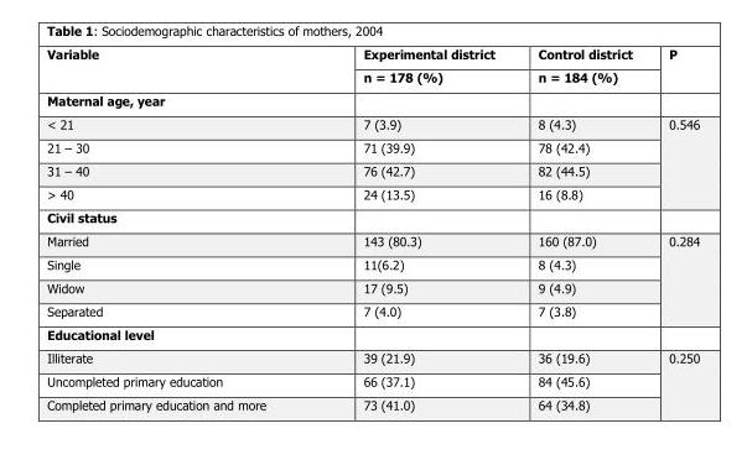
<table><thead><tr><td rowspan="2">Variable</td><td rowspan="2">Experimental district n = 178 (%)</td><td rowspan="2">Control district n = 184 (%)</td><td rowspan="2">P</td></tr><tr></tr></thead><tbody><tr><td colspan="4">Maternal age, year</td></tr><tr><td>&lt; 21</td><td>7 (3.9)</td><td>8 (4.3)</td><td rowspan="4">0.546</td></tr><tr><td>21 – 30</td><td>71 (39.9)</td><td>78 (42.4)</td></tr><tr><td>31 – 40</td><td>76 (42.7)</td><td>82 (44.5)</td></tr><tr><td>&gt; 40</td><td>24 (13.5)</td><td>16 (8.8)</td></tr><tr><td colspan="4">Civil status</td></tr><tr><td>Married</td><td>143 (80.3)</td><td>160 (87.0)</td><td rowspan="4">0.284</td></tr><tr><td>Single</td><td>11(6.2)</td><td>8 (4.3)</td></tr><tr><td>Widow</td><td>17 (9.5)</td><td>9 (4.9)</td></tr><tr><td>Separated</td><td>7 (4.0)</td><td>7 (3.8)</td></tr><tr><td colspan="4">Educational level</td></tr><tr><td>Illiterate</td><td>39 (21.9)</td><td>36 (19.6)</td><td rowspan="3">0.250</td></tr><tr><td>Uncompleted primary education</td><td>66 (37.1)</td><td>84 (45.6)</td></tr><tr><td>Completed primary education and more</td><td>73 (41.0)</td><td>64 (34.8)</td></tr></tbody></table>